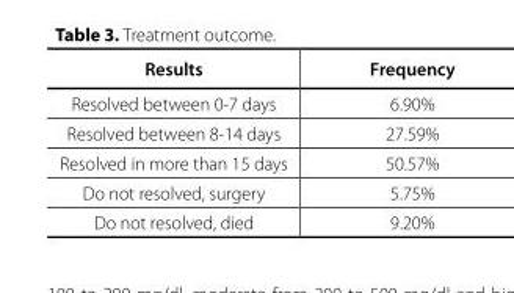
<table><thead><tr><td>Results</td><td>Frequency</td></tr></thead><tbody><tr><td>Resolved between 0-7 days</td><td>6.90%</td></tr><tr><td>Resolved between 8-14 days</td><td>27.59%</td></tr><tr><td>Resolved in more than 15 days</td><td>50.57%</td></tr><tr><td>Do not resolved, surgery</td><td>5.75%</td></tr><tr><td>Do not resolved, died</td><td>9.20%</td></tr></tbody></table>